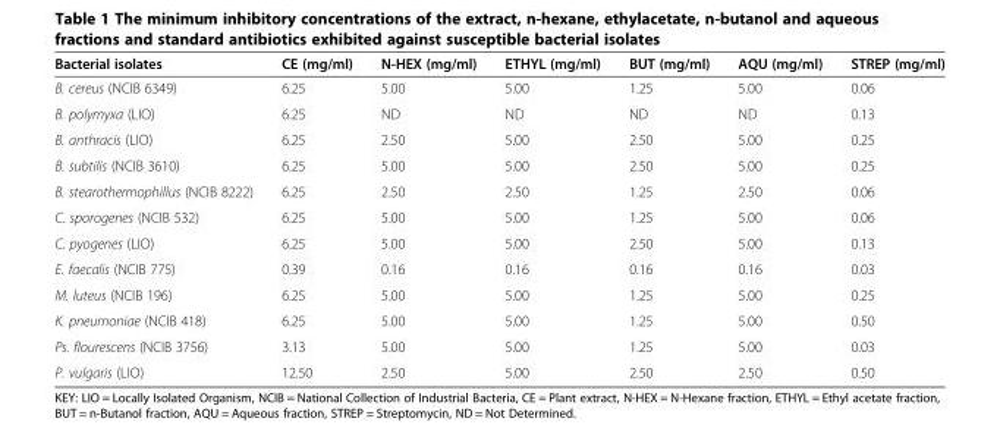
<table><thead><tr><td>Bacterial isolates</td><td>CE (mg/ml)</td><td>N-HEX (mg/ml)</td><td>ETHYL (mg/ml)</td><td>BUT (mg/ml)</td><td>AQU (mg/ml)</td><td>STREP (mg/ml)</td></tr></thead><tbody><tr><td>B. cereus (NCIB 6349)</td><td>6.25</td><td>5.00</td><td>5.00</td><td>1.25</td><td>5.00</td><td>0.06</td></tr><tr><td>B. polymyxa (LIO)</td><td>6.25</td><td>ND</td><td>ND</td><td>ND</td><td>ND</td><td>0.13</td></tr><tr><td>B. anthracis (LIO)</td><td>6.25</td><td>2.50</td><td>5.00</td><td>2.50</td><td>5.00</td><td>0.25</td></tr><tr><td>B. subtilis (NCIB 3610)</td><td>6.25</td><td>5.00</td><td>5.00</td><td>2.50</td><td>5.00</td><td>0.25</td></tr><tr><td>B. stearothermophillus (NCIB 8222)</td><td>6.25</td><td>2.50</td><td>2.50</td><td>1.25</td><td>2.50</td><td>0.06</td></tr><tr><td>C. sporogenes (NCIB 532)</td><td>6.25</td><td>5.00</td><td>5.00</td><td>1.25</td><td>5.00</td><td>0.06</td></tr><tr><td>C. pyogenes (LIO)</td><td>6.25</td><td>5.00</td><td>5.00</td><td>2.50</td><td>5.00</td><td>0.13</td></tr><tr><td>E. faecalis (NCIB 775)</td><td>0.39</td><td>0.16</td><td>0.16</td><td>0.16</td><td>0.16</td><td>0.03</td></tr><tr><td>M. luteus (NCIB 196)</td><td>6.25</td><td>5.00</td><td>5.00</td><td>1.25</td><td>5.00</td><td>0.25</td></tr><tr><td>K. pneumoniae (NCIB 418)</td><td>6.25</td><td>5.00</td><td>5.00</td><td>1.25</td><td>5.00</td><td>0.50</td></tr><tr><td>Ps. flourescens (NCIB 3756)</td><td>3.13</td><td>5.00</td><td>5.00</td><td>1.25</td><td>5.00</td><td>0.03</td></tr><tr><td>P. vulgaris (LIO)</td><td>12.50</td><td>2.50</td><td>5.00</td><td>2.50</td><td>2.50</td><td>0.50</td></tr></tbody></table>